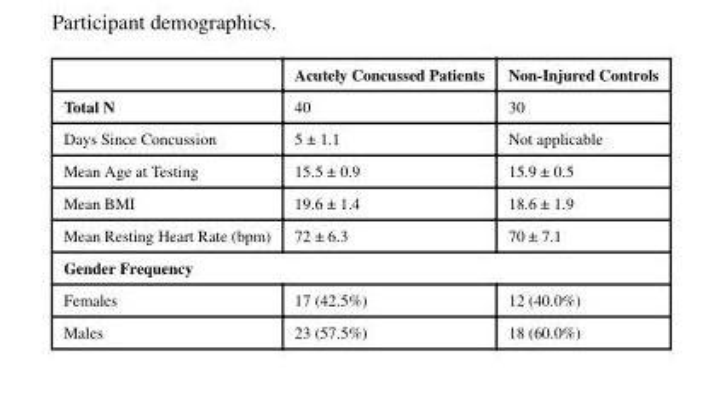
<table><thead><tr><td></td><td>Acutely Concussed Patients</td><td>Non-Injured Controls</td></tr></thead><tbody><tr><td>Total N</td><td>40</td><td>30</td></tr><tr><td>Days Since Concussion</td><td>5 ± 1.1</td><td>Not applicable</td></tr><tr><td>Mean Age at Testing</td><td>15.5 ± 0.9</td><td>15.9 ± 0.5</td></tr><tr><td>Mean BMI</td><td>19.6 ± 1.4</td><td>18.6 ± 1.9</td></tr><tr><td>Mean Resting Heart Rate (bpm)</td><td>72 ± 6.3</td><td>70 ± 7.1</td></tr><tr><td colspan="3">Gender Frequency</td></tr><tr><td>Females</td><td>17 (42.5%)</td><td>12 (40.0%)</td></tr><tr><td>Males</td><td>23 (57.5%)</td><td>18 (60.0%)</td></tr></tbody></table>